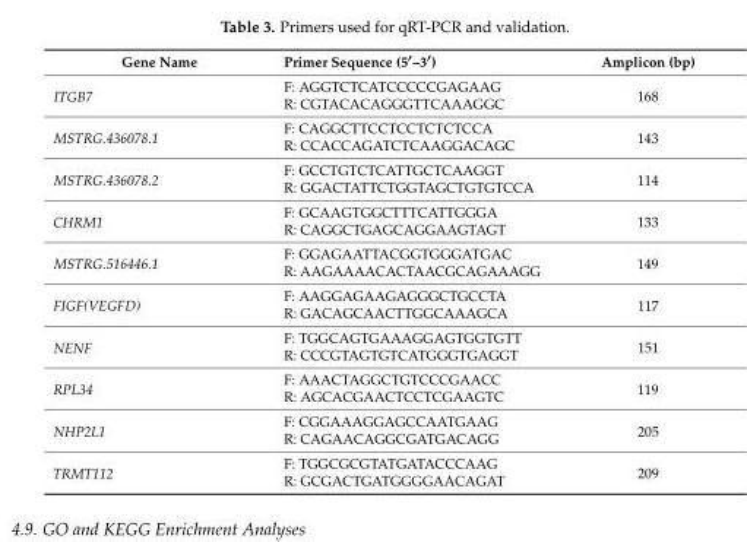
<table><thead><tr><td>Gene Name</td><td>Primer Sequence (5′–3′)</td><td>Amplicon (bp)</td></tr></thead><tbody><tr><td rowspan="2">ITGB7</td><td>F: AGGTCTCATCCCCCGAGAAG</td><td rowspan="2">168</td></tr><tr><td>R: CGTACACAGGGTTCAAAGGC</td></tr><tr><td rowspan="2">MSTRG.436078.1</td><td>F: CAGGCTTCCTCCTCTCTCCA</td><td rowspan="2">143</td></tr><tr><td>R: CCACCAGATCTCAAGGACAGC</td></tr><tr><td rowspan="2">MSTRG.436078.2</td><td>F: GCCTGTCTCATTGCTCAAGGT</td><td rowspan="2">114</td></tr><tr><td>R: GGACTATTCTGGTAGCTGTGTCCA</td></tr><tr><td rowspan="2">CHRM1</td><td>F: GCAAGTGGCTTTCATTGGGA</td><td rowspan="2">133</td></tr><tr><td>R: CAGGCTGAGCAGGAAGTAGT</td></tr><tr><td rowspan="2">MSTRG.516446.1</td><td>F: GGAGAATTACGGTGGGATGAC</td><td rowspan="2">149</td></tr><tr><td>R: AAGAAAACACTAACGCAGAAAGG</td></tr><tr><td rowspan="2">FIGF(VEGFD)</td><td>F: AAGGAGAAGAGGGCTGCCTA</td><td rowspan="2">117</td></tr><tr><td>R: GACAGCAACTTGGCAAAGCA</td></tr><tr><td rowspan="2">NENF</td><td>F: TGGCAGTGAAAGGAGTGGTGTT</td><td rowspan="2">151</td></tr><tr><td>R: CCCGTAGTGTCATGGGTGAGGT</td></tr><tr><td rowspan="2">RPL34</td><td>F: AAACTAGGCTGTCCCGAACC</td><td rowspan="2">119</td></tr><tr><td>R: AGCACGAACTCCTCGAAGTC</td></tr><tr><td rowspan="2">NHP2L1</td><td>F: CGGAAAGGAGCCAATGAAG</td><td rowspan="2">205</td></tr><tr><td>R: CAGAACAGGCGATGACAGG</td></tr><tr><td rowspan="2">TRMT112</td><td>F: TGGCGCGTATGATACCCAAG</td><td rowspan="2">209</td></tr><tr><td>R: GCGACTGATGGGGAACAGAT</td></tr></tbody></table>